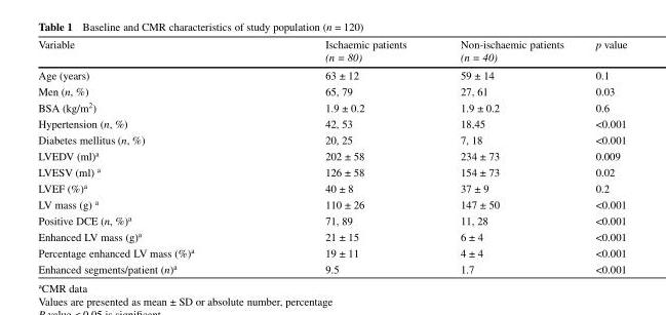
<table><thead><tr><td>Variable</td><td>Ischaemic patients (n = 80)</td><td>Non-ischaemic patients (n = 40)</td><td>p value</td></tr></thead><tbody><tr><td>Age (years)</td><td>63 ± 12</td><td>59 ± 14</td><td>0.1</td></tr><tr><td>Men (n, %)</td><td>65, 79</td><td>27, 61</td><td>0.03</td></tr><tr><td>BSA (kg/m<sup>2</sup>)</td><td>1.9 ± 0.2</td><td>1.9 ± 0.2</td><td>0.6</td></tr><tr><td>Hypertension (n, %)</td><td>42, 53</td><td>18,45</td><td>&lt;0.001</td></tr><tr><td>Diabetes mellitus (n, %)</td><td>20, 25</td><td>7, 18</td><td>&lt;0.001</td></tr><tr><td>LVEDV (ml)<sup>a</sup></td><td>202 ± 58</td><td>234 ± 73</td><td>0.009</td></tr><tr><td>LVESV (ml) <sup>a</sup></td><td>126 ± 58</td><td>154 ± 73</td><td>0.02</td></tr><tr><td>LVEF (%)<sup>a</sup></td><td>40 ± 8</td><td>37 ± 9</td><td>0.2</td></tr><tr><td>LV mass (g) <sup>a</sup></td><td>110 ± 26</td><td>147 ± 50</td><td>&lt;0.001</td></tr><tr><td>Positive DCE (n, %)<sup>a</sup></td><td>71, 89</td><td>11, 28</td><td>&lt;0.001</td></tr><tr><td>Enhanced LV mass (g)<sup>a</sup></td><td>21 ± 15</td><td>6 ± 4</td><td>&lt;0.001</td></tr><tr><td>Percentage enhanced LV mass (%)<sup>a</sup></td><td>19 ± 11</td><td>4 ± 4</td><td>&lt;0.001</td></tr><tr><td>Enhanced segments/patient (n)<sup>a</sup></td><td>9.5</td><td>1.7</td><td>&lt;0.001</td></tr></tbody></table>